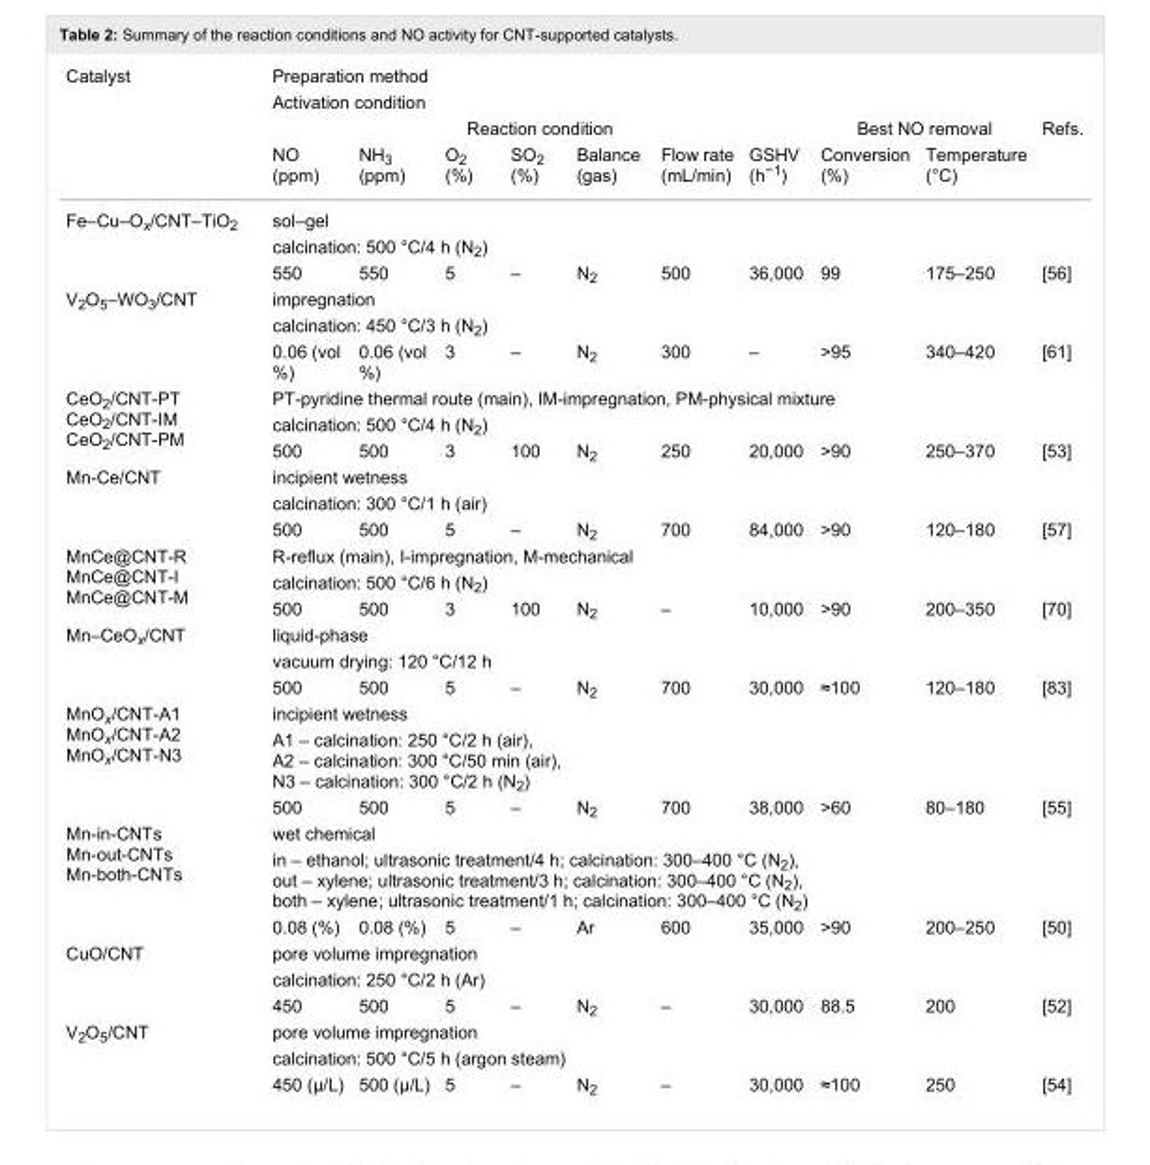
<table><tbody><tr><td rowspan="4">Catalyst</td><td colspan="10">Preparation method</td></tr><tr><td colspan="10">Activation condition</td></tr><tr><td colspan="7">Reaction condition</td><td colspan="2">Best NO removal</td><td>Refs.</td></tr><tr><td>NO (ppm)</td><td>NH<sub>3</sub> (ppm)</td><td>O<sub>2</sub> (%)</td><td>SO2 (%)</td><td>Balance (gas)</td><td>Flow rate (mL/min)</td><td>GSHV (h<sup>−1</sup>)</td><td>Conversion (%)</td><td>Temperature (°C)</td><td></td></tr><tr><td rowspan="3">Fe–Cu–O<sub>x</sub>/CNT–TiO<sub>2</sub></td><td colspan="10">sol–gel</td></tr><tr><td colspan="10">calcination: 500 °C/4 h (N<sub>2</sub>)</td></tr><tr><td>550</td><td>550</td><td>5</td><td>–</td><td>N<sub>2</sub></td><td>500</td><td>36,000</td><td>99</td><td>175–250</td><td>[56]</td></tr><tr><td rowspan="3">V<sub>2</sub>O<sub>5</sub>–WO<sub>3</sub>/CNT</td><td colspan="10">impregnation</td></tr><tr><td colspan="10">calcination: 450 °C/3 h (N<sub>2</sub>)</td></tr><tr><td>0.06 (vol %)</td><td>0.06 (vol %)</td><td>3</td><td>–</td><td>N<sub>2</sub></td><td>300</td><td>–</td><td>&gt;95</td><td>340–420</td><td>[61]</td></tr><tr><td rowspan="3">CeO<sub>2</sub>/CNT-PT CeO<sub>2</sub>/CNT-IM CeO<sub>2</sub>/CNT-PM</td><td colspan="10">PT-pyridine thermal route (main), IM-impregnation, PM-physical mixture</td></tr><tr><td colspan="10">calcination: 500 °C/4 h (N<sub>2</sub>)</td></tr><tr><td>500</td><td>500</td><td>3</td><td>100</td><td>N<sub>2</sub></td><td>250</td><td>20,000</td><td>&gt;90</td><td>250–370</td><td>[53]</td></tr><tr><td rowspan="3">Mn-Ce/CNT</td><td colspan="10">incipient wetness</td></tr><tr><td colspan="10">calcination: 300 °C/1 h (air)</td></tr><tr><td>500</td><td>500</td><td>5</td><td>–</td><td>N<sub>2</sub></td><td>700</td><td>84,000</td><td>&gt;90</td><td>120–180</td><td>[57]</td></tr><tr><td rowspan="3">MnCe@CNT-R MnCe@CNT-I MnCe@CNT-M</td><td colspan="10">R-reflux (main), I-impregnation, M-mechanical</td></tr><tr><td colspan="10">calcination: 500 °C/6 h (N<sub>2</sub>)</td></tr><tr><td>500</td><td>500</td><td>3</td><td>100</td><td>N<sub>2</sub></td><td>–</td><td>10,000</td><td>&gt;90</td><td>200–350</td><td>[70]</td></tr><tr><td rowspan="3">Mn–CeO<sub>x</sub>/CNT</td><td colspan="10">liquid-phase</td></tr><tr><td colspan="10">vacuum drying: 120 °C/12 h</td></tr><tr><td>500</td><td>500</td><td>5</td><td>–</td><td>N<sub>2</sub></td><td>700</td><td>30,000</td><td>≈100</td><td>120–180</td><td>[83]</td></tr><tr><td rowspan="3">MnO<sub>x</sub>/CNT-A1 MnO<sub>x</sub>/CNT-A2 MnO<sub>x</sub>/CNT-N3</td><td colspan="10">incipient wetness</td></tr><tr><td colspan="10">A1 – calcination: 250 °C/2 h (air), A2 – calcination: 300 °C/50 min (air), N3 – calcination: 300 °C/2 h (N<sub>2</sub>)</td></tr><tr><td>500</td><td>500</td><td>5</td><td>–</td><td>N<sub>2</sub></td><td>700</td><td>38,000</td><td>&gt;60</td><td>80–180</td><td>[55]</td></tr><tr><td rowspan="3">Mn-in-CNTs Mn-out-CNTs Mn-both-CNTs</td><td colspan="10">wet chemical</td></tr><tr><td colspan="10">in – ethanol; ultrasonic treatment/4 h; calcination: 300–400 °C (N<sub>2</sub>), out – xylene; ultrasonic treatment/3 h; calcination: 300–400 °C (N<sub>2</sub>), both – xylene; ultrasonic treatment/1 h; calcination: 300–400 °C (N<sub>2</sub>)</td></tr><tr><td>0.08 (%)</td><td>0.08 (%)</td><td>5</td><td>–</td><td>Ar</td><td>600</td><td>35,000</td><td>&gt;90</td><td>200–250</td><td>[50]</td></tr><tr><td rowspan="3">CuO/CNT</td><td colspan="10">pore volume impregnation</td></tr><tr><td colspan="10">calcination: 250 °C/2 h (Ar)</td></tr><tr><td>450</td><td>500</td><td>5</td><td>–</td><td>N<sub>2</sub></td><td>–</td><td>30,000</td><td>88.5</td><td>200</td><td>[52]</td></tr><tr><td rowspan="3">V<sub>2</sub>O<sub>5</sub>/CNT</td><td colspan="10">pore volume impregnation</td></tr><tr><td colspan="10">calcination: 500 °C/5 h (argon steam)</td></tr><tr><td>450 (µ/L)</td><td>500 (µ/L)</td><td>5</td><td>–</td><td>N<sub>2</sub></td><td>–</td><td>30,000</td><td>≈100</td><td>250</td><td>[54]</td></tr></tbody></table>